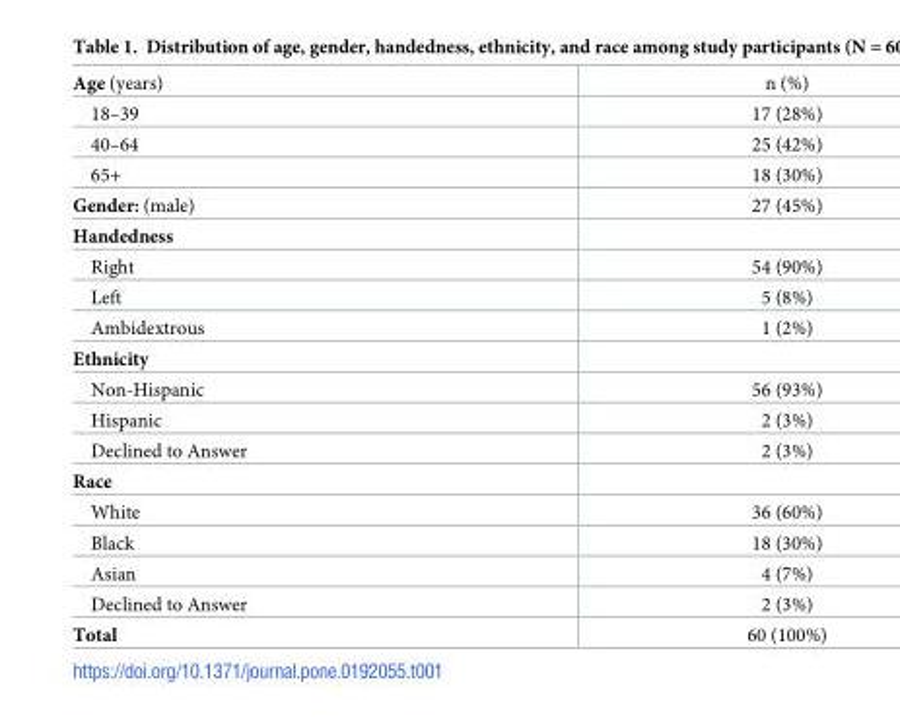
<table><tbody><tr><td>Age (years)</td><td>n (%)</td></tr><tr><td>18–39</td><td>17 (28%)</td></tr><tr><td>40–64</td><td>25 (42%)</td></tr><tr><td>65+</td><td>18 (30%)</td></tr><tr><td>Gender: (male)</td><td>27 (45%)</td></tr><tr><td colspan="2">Handedness</td></tr><tr><td>Right</td><td>54 (90%)</td></tr><tr><td>Left</td><td>5 (8%)</td></tr><tr><td>Ambidextrous</td><td>1 (2%)</td></tr><tr><td colspan="2">Ethnicity</td></tr><tr><td>Non-Hispanic</td><td>56 (93%)</td></tr><tr><td>Hispanic</td><td>2 (3%)</td></tr><tr><td>Declined to Answer</td><td>2 (3%)</td></tr><tr><td colspan="2">Race</td></tr><tr><td>White</td><td>36 (60%)</td></tr><tr><td>Black</td><td>18 (30%)</td></tr><tr><td>Asian</td><td>4 (7%)</td></tr><tr><td>Declined to Answer</td><td>2 (3%)</td></tr><tr><td>Total</td><td>60 (100%)</td></tr></tbody></table>